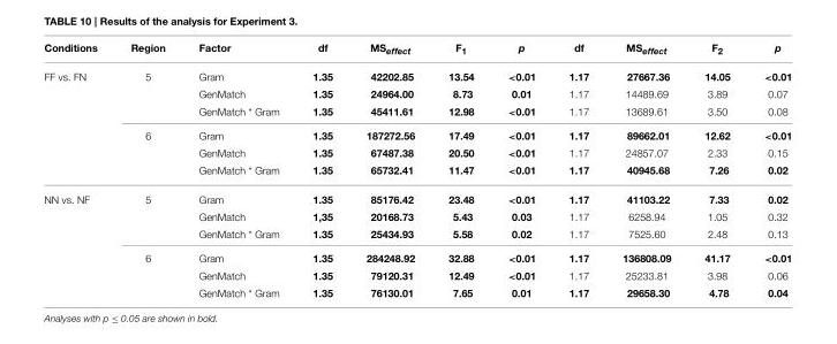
<table><thead><tr><td>Conditions</td><td>Region</td><td>Factor</td><td>df</td><td>MS<sub>effect</sub></td><td>F<sub>1</sub></td><td>p</td><td>df</td><td>MS<sub>effect</sub></td><td>F<sub>2</sub></td><td>p</td></tr></thead><tbody><tr><td rowspan="6">FF vs. FN</td><td>5</td><td>Gram</td><td>1.35</td><td>42202.85</td><td>13.54</td><td>&lt;0.01</td><td>1.17</td><td>27667.36</td><td>14.05</td><td>&lt;0.01</td></tr><tr><td></td><td>GenMatch</td><td>1.35</td><td>24964.00</td><td>8.73</td><td>0.01</td><td>1.17</td><td>14489.69</td><td>3.89</td><td>0.07</td></tr><tr><td></td><td>GenMatch * Gram</td><td>1.35</td><td>45411.61</td><td>12.98</td><td>&lt;0.01</td><td>1.17</td><td>13689.61</td><td>3.50</td><td>0.08</td></tr><tr><td>6</td><td>Gram</td><td>1.35</td><td>187272.56</td><td>17.49</td><td>&lt;0.01</td><td>1.17</td><td>89662.01</td><td>12.62</td><td>&lt;0.01</td></tr><tr><td></td><td>GenMatch</td><td>1.35</td><td>67487.38</td><td>20.50</td><td>&lt;0.01</td><td>1.17</td><td>24857.07</td><td>2.33</td><td>0.15</td></tr><tr><td></td><td>GenMatch * Gram</td><td>1.35</td><td>65732.41</td><td>11.47</td><td>&lt;0.01</td><td>1.17</td><td>40945.68</td><td>7.26</td><td>0.02</td></tr><tr><td rowspan="6">NN vs. NF</td><td>5</td><td>Gram</td><td>1.35</td><td>85176.42</td><td>23.48</td><td>&lt;0.01</td><td>1.17</td><td>41103.22</td><td>7.33</td><td>0.02</td></tr><tr><td></td><td>GenMatch</td><td>1,35</td><td>20168.73</td><td>5.43</td><td>0.03</td><td>1.17</td><td>6258.94</td><td>1.05</td><td>0.32</td></tr><tr><td></td><td>GenMatch * Gram</td><td>1.35</td><td>25434.93</td><td>5.58</td><td>0.02</td><td>1.17</td><td>7525.60</td><td>2.48</td><td>0.13</td></tr><tr><td>6</td><td>Gram</td><td>1.35</td><td>284248.92</td><td>32.88</td><td>&lt;0.01</td><td>1.17</td><td>136808.09</td><td>41.17</td><td>&lt;0.01</td></tr><tr><td></td><td>GenMatch</td><td>1.35</td><td>79120.31</td><td>12.49</td><td>&lt;0.01</td><td>1.17</td><td>25233.81</td><td>3.98</td><td>0.06</td></tr><tr><td></td><td>GenMatch * Gram</td><td>1.35</td><td>76130.01</td><td>7.65</td><td>0.01</td><td>1.17</td><td>29658.30</td><td>4.78</td><td>0.04</td></tr></tbody></table>